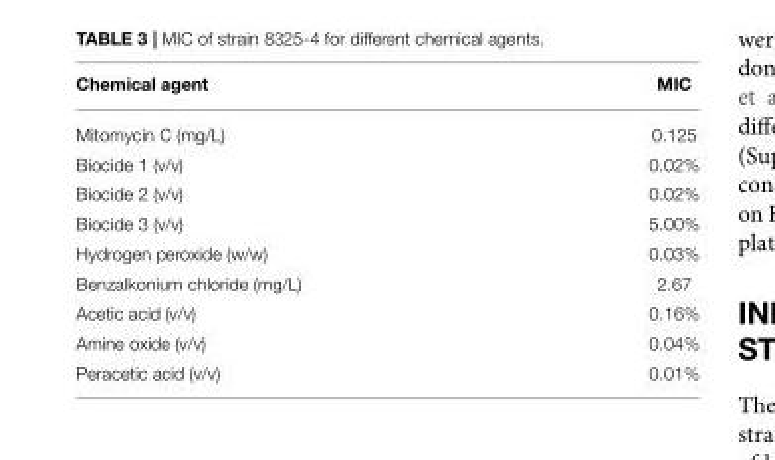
<table><thead><tr><td>Chemical agent</td><td>MIC</td></tr></thead><tbody><tr><td>Mitomycin C (mg/L)</td><td>0.125</td></tr><tr><td>Biocide 1 (v/v)</td><td>0.02%</td></tr><tr><td>Biocide 2 (v/v)</td><td>0.02%</td></tr><tr><td>Biocide 3 (v/v)</td><td>5.00%</td></tr><tr><td>Hydrogen peroxide (w/w)</td><td>0.03%</td></tr><tr><td>Benzalkonium chloride (mg/L)</td><td>2.67</td></tr><tr><td>Acetic acid (v/v)</td><td>0.16%</td></tr><tr><td>Amine oxide (v/v)</td><td>0.04%</td></tr><tr><td>Peracetic acid (v/v)</td><td>0.01%</td></tr></tbody></table>